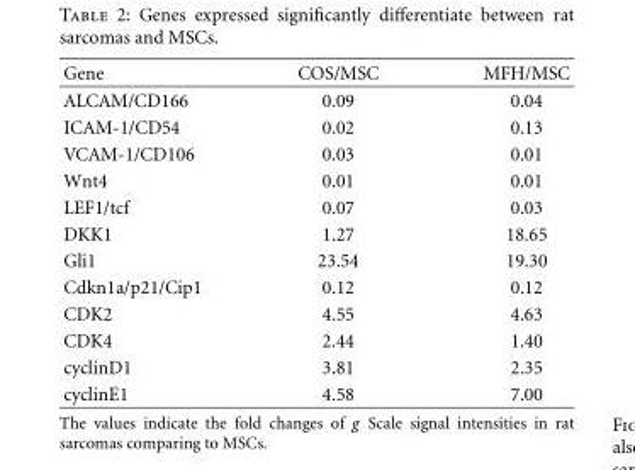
<table><thead><tr><td>Gene</td><td>COS/MSC</td><td>MFH/MSC</td></tr></thead><tbody><tr><td>ALCAM/CD166</td><td>0.09</td><td>0.04</td></tr><tr><td>ICAM-1/CD54</td><td>0.02</td><td>0.13</td></tr><tr><td>VCAM-1/CD106</td><td>0.03</td><td>0.01</td></tr><tr><td>Wnt4</td><td>0.01</td><td>0.01</td></tr><tr><td>LEF1/tcf</td><td>0.07</td><td>0.03</td></tr><tr><td>DKK1</td><td>1.27</td><td>18.65</td></tr><tr><td>Gli1</td><td>23.54</td><td>19.30</td></tr><tr><td>Cdkn1a/p21/Cip1</td><td>0.12</td><td>0.12</td></tr><tr><td>CDK2</td><td>4.55</td><td>4.63</td></tr><tr><td>CDK4</td><td>2.44</td><td>1.40</td></tr><tr><td>cyclinD1</td><td>3.81</td><td>2.35</td></tr><tr><td>cyclinE1</td><td>4.58</td><td>7.00</td></tr></tbody></table>